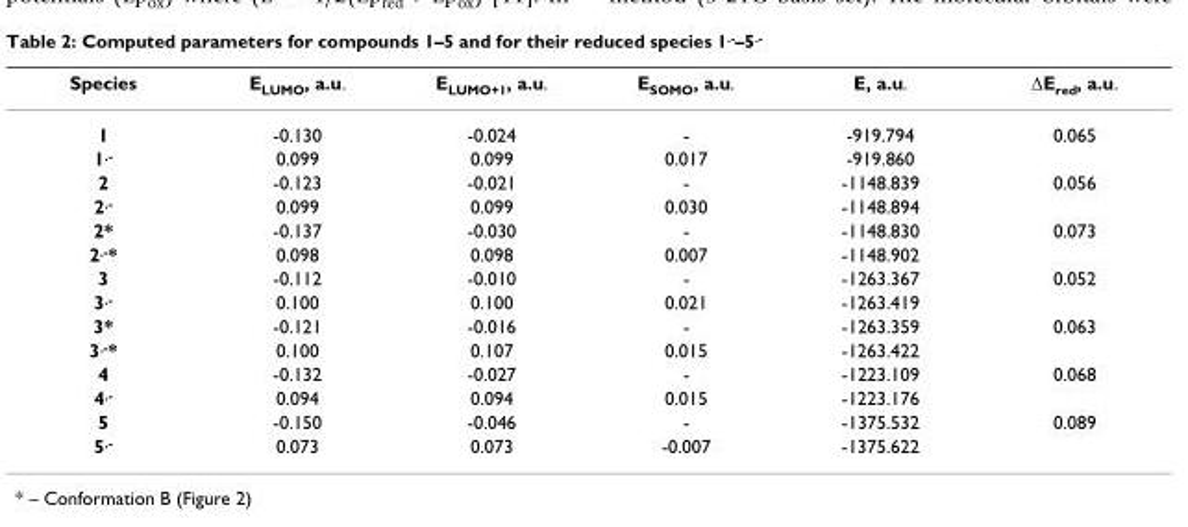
<table><thead><tr><td>Species</td><td>E<sub>LUMO</sub>, a.u.</td><td>E<sub>LUMO+1</sub>, a.u.</td><td>E<sub>SOMO</sub>, a.u.</td><td>E, a.u.</td><td>ΔE<sub>red</sub>, a.u.</td></tr></thead><tbody><tr><td>1</td><td>-0.130</td><td>-0.024</td><td>-</td><td>-919.794</td><td>0.065</td></tr><tr><td>1.-</td><td>0.099</td><td>0.099</td><td>0.017</td><td>-919.860</td><td></td></tr><tr><td>2</td><td>-0.123</td><td>-0.021</td><td>-</td><td>-1148.839</td><td>0.056</td></tr><tr><td>2.-</td><td>0.099</td><td>0.099</td><td>0.030</td><td>-1148.894</td><td></td></tr><tr><td>2*</td><td>-0.137</td><td>-0.030</td><td>-</td><td>-1148.830</td><td>0.073</td></tr><tr><td>2.-*</td><td>0.098</td><td>0.098</td><td>0.007</td><td>-1148.902</td><td></td></tr><tr><td>3</td><td>-0.112</td><td>-0.010</td><td>-</td><td>-1263.367</td><td>0.052</td></tr><tr><td>3.-</td><td>0.100</td><td>0.100</td><td>0.021</td><td>-1263.419</td><td></td></tr><tr><td>3*</td><td>-0.121</td><td>-0.016</td><td>-</td><td>-1263.359</td><td>0.063</td></tr><tr><td>3.-*</td><td>0.100</td><td>0.107</td><td>0.015</td><td>-1263.422</td><td></td></tr><tr><td>4</td><td>-0.132</td><td>-0.027</td><td>-</td><td>-1223.109</td><td>0.068</td></tr><tr><td>4.-</td><td>0.094</td><td>0.094</td><td>0.015</td><td>-1223.176</td><td></td></tr><tr><td>5</td><td>-0.150</td><td>-0.046</td><td>-</td><td>-1375.532</td><td>0.089</td></tr><tr><td>5.-</td><td>0.073</td><td>0.073</td><td>-0.007</td><td>-1375.622</td><td></td></tr></tbody></table>